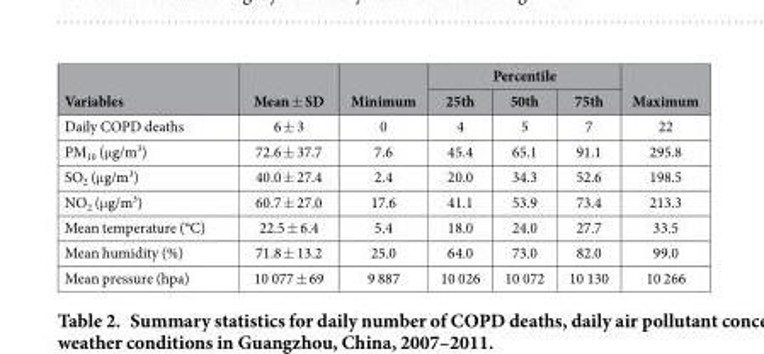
<table><thead><tr><td rowspan="2">Variables</td><td rowspan="2">Mean ± SD</td><td rowspan="2">Minimum</td><td colspan="3">Percentile</td><td rowspan="2">Maximum</td></tr><tr><td>25th</td><td>50th</td><td>75th</td></tr></thead><tbody><tr><td>Daily COPD deaths</td><td>6 ± 3</td><td>0</td><td>4</td><td>5</td><td>7</td><td>22</td></tr><tr><td>PM<sub>10</sub> (μ g/m<sup>3</sup>)</td><td>72.6 ± 37.7</td><td>7.6</td><td>45.4</td><td>65.1</td><td>91.1</td><td>295.8</td></tr><tr><td>SO<sub>2</sub> (μ g/m<sup>3</sup>)</td><td>40.0 ± 27.4</td><td>2.4</td><td>20.0</td><td>34.3</td><td>52.6</td><td>198.5</td></tr><tr><td>NO<sub>2</sub> (μ g/m<sup>3</sup>)</td><td>60.7 ± 27.0</td><td>17.6</td><td>41.1</td><td>53.9</td><td>73.4</td><td>213.3</td></tr><tr><td>Mean temperature (°C)</td><td>22.5 ± 6.4</td><td>5.4</td><td>18.0</td><td>24.0</td><td>27.7</td><td>33.5</td></tr><tr><td>Mean humidity (%)</td><td>71.8 ± 13.2</td><td>25.0</td><td>64.0</td><td>73.0</td><td>82.0</td><td>99.0</td></tr><tr><td>Mean pressure (hpa)</td><td>10 077 ± 69</td><td>9 887</td><td>10 026</td><td>10 072</td><td>10 130</td><td>10 266</td></tr></tbody></table>